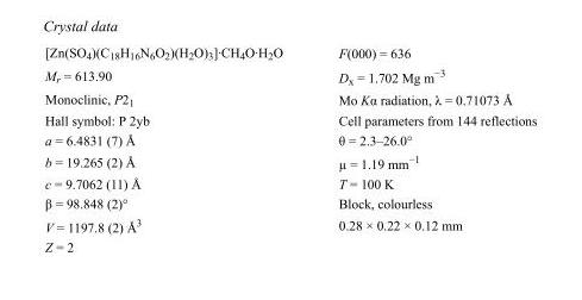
<table><tbody><tr><td>[Zn(SO<sub>4</sub>)(C<sub>18</sub>H<sub>16</sub>N<sub>6</sub>O<sub>2</sub>)(H<sub>2</sub>O)<sub>3</sub>]·CH<sub>4</sub>O·H<sub>2</sub>O</td><td>F(000) = 636</td></tr><tr><td>M<sub>r</sub> = 613.90</td><td>D<sub>x</sub> = 1.702 Mg m<sup>−3</sup></td></tr><tr><td>Monoclinic, P2<sub>1</sub></td><td>Mo Kα radiation, λ = 0.71073 Å</td></tr><tr><td>Hall symbol: P 2yb</td><td>Cell parameters from 144 reflections</td></tr><tr><td>a = 6.4831 (7) Å</td><td>θ = 2.3–26.0°</td></tr><tr><td>b = 19.265 (2) Å</td><td>µ = 1.19 mm<sup>−1</sup></td></tr><tr><td>c = 9.7062 (11) Å</td><td>T = 100 K</td></tr><tr><td>β = 98.848 (2)°</td><td>Block, colourless</td></tr><tr><td>V = 1197.8 (2) Å<sup>3</sup></td><td>0.28 × 0.22 × 0.12 mm</td></tr><tr><td>Z = 2</td><td></td></tr></tbody></table>